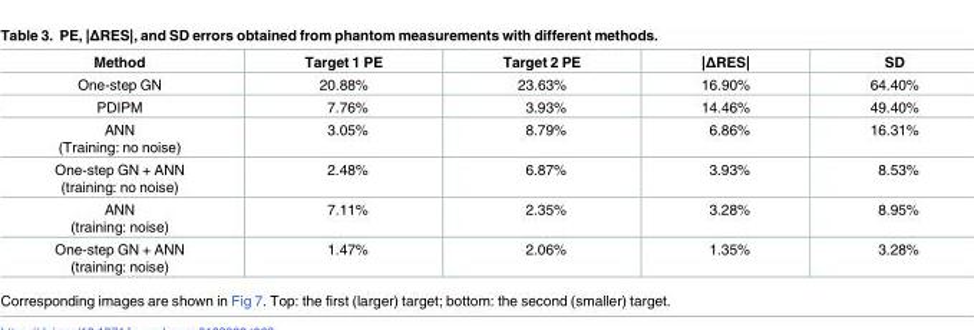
<table><thead><tr><td>Method</td><td>Target 1 PE</td><td>Target 2 PE</td><td>|ΔRES|</td><td>SD</td></tr></thead><tbody><tr><td>One-step GN</td><td>20.88%</td><td>23.63%</td><td>16.90%</td><td>64.40%</td></tr><tr><td>PDIPM</td><td>7.76%</td><td>3.93%</td><td>14.46%</td><td>49.40%</td></tr><tr><td>ANN (Training: no noise)</td><td>3.05%</td><td>8.79%</td><td>6.86%</td><td>16.31%</td></tr><tr><td>One-step GN + ANN (training: no noise)</td><td>2.48%</td><td>6.87%</td><td>3.93%</td><td>8.53%</td></tr><tr><td>ANN (training: noise)</td><td>7.11%</td><td>2.35%</td><td>3.28%</td><td>8.95%</td></tr><tr><td>One-step GN + ANN (training: noise)</td><td>1.47%</td><td>2.06%</td><td>1.35%</td><td>3.28%</td></tr></tbody></table>